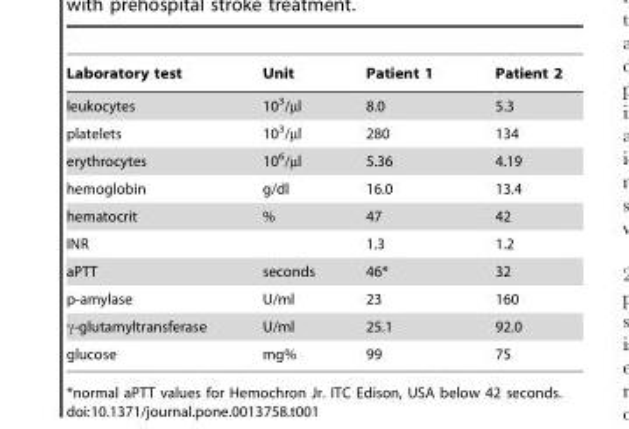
<table><thead><tr><td>Laboratory test</td><td>Unit</td><td>Patient 1</td><td>Patient 2</td></tr></thead><tbody><tr><td>leukocytes</td><td>10<sup>3</sup>/µl</td><td>8.0</td><td>5.3</td></tr><tr><td>platelets</td><td>10<sup>3</sup>/µl</td><td>280</td><td>134</td></tr><tr><td>erythrocytes</td><td>10<sup>6</sup>/µl</td><td>5.36</td><td>4.19</td></tr><tr><td>hemoglobin</td><td>g/dl</td><td>16.0</td><td>13.4</td></tr><tr><td>hematocrit</td><td>%</td><td>47</td><td>42</td></tr><tr><td>INR</td><td></td><td>1.3</td><td>1.2</td></tr><tr><td>aPTT</td><td>seconds</td><td>46*</td><td>32</td></tr><tr><td>p-amylase</td><td>U/ml</td><td>23</td><td>160</td></tr><tr><td>γ-glutamyltransferase</td><td>U/ml</td><td>25.1</td><td>92.0</td></tr><tr><td>glucose</td><td>mg%</td><td>99</td><td>75</td></tr></tbody></table>